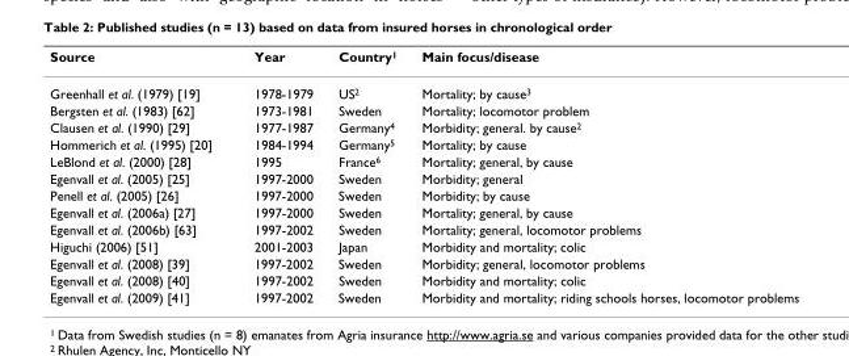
<table><thead><tr><td>Source</td><td>Year</td><td>Country<sup>1</sup></td><td>Main focus/disease</td></tr></thead><tbody><tr><td>Greenhall et al. (1979) [19]</td><td>1978-1979</td><td>US<sup>2</sup></td><td>Mortality; by cause<sup>3</sup></td></tr><tr><td>Bergsten et al. (1983) [62]</td><td>1973-1981</td><td>Sweden</td><td>Mortality; locomotor problem</td></tr><tr><td>Clausen et al. (1990) [29]</td><td>1977-1987</td><td>Germany<sup>4</sup></td><td>Morbidity; general. by cause<sup>2</sup></td></tr><tr><td>Hommerich et al. (1995) [20]</td><td>1984-1994</td><td>Germany<sup>5</sup></td><td>Mortality; by cause</td></tr><tr><td>LeBlond et al. (2000) [28]</td><td>1995</td><td>France<sup>6</sup></td><td>Mortality; general, by cause</td></tr><tr><td>Egenvall et al. (2005) [25]</td><td>1997-2000</td><td>Sweden</td><td>Morbidity; general</td></tr><tr><td>Penell et al. (2005) [26]</td><td>1997-2000</td><td>Sweden</td><td>Morbidity; by cause</td></tr><tr><td>Egenvall et al. (2006a) [27]</td><td>1997-2000</td><td>Sweden</td><td>Mortality; general, by cause</td></tr><tr><td>Egenvall et al. (2006b) [63]</td><td>1997-2002</td><td>Sweden</td><td>Mortality; general, locomotor problems</td></tr><tr><td>Higuchi (2006) [51]</td><td>2001-2003</td><td>Japan</td><td>Morbidity and mortality; colic</td></tr><tr><td>Egenvall et al. (2008) [39]</td><td>1997-2002</td><td>Sweden</td><td>Morbidity; general, locomotor problems</td></tr><tr><td>Egenvall et al. (2008) [40]</td><td>1997-2002</td><td>Sweden</td><td>Morbidity and mortality; colic</td></tr><tr><td>Egenvall et al. (2009) [41]</td><td>1997-2002</td><td>Sweden</td><td>Morbidity and mortality; riding schools horses, locomotor problems</td></tr></tbody></table>